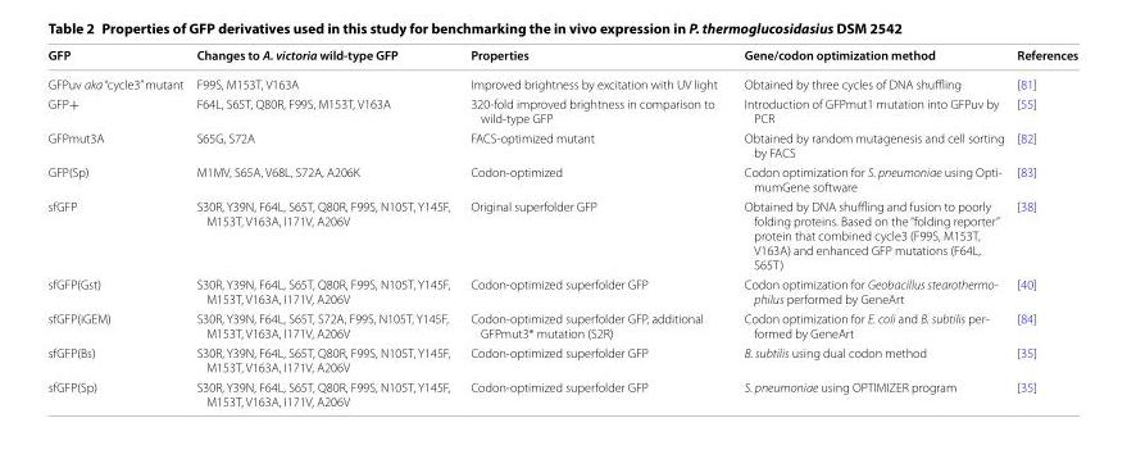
<table><thead><tr><td>GFP</td><td>Changes to A. victoria wild‑type GFP</td><td>Properties</td><td>Gene/codon optimization method</td><td>References</td></tr></thead><tbody><tr><td>GFPuv aka “cycle3” mutant</td><td>F99S, M153T, V163A</td><td>Improved brightness by excitation with UV light</td><td>Obtained by three cycles of DNA shuffling</td><td>[81]</td></tr><tr><td>GFP+</td><td>F64L, S65T, Q80R, F99S, M153T, V163A</td><td>320-fold improved brightness in comparison to wild-type GFP</td><td>Introduction of GFPmut1 mutation into GFPuv by PCR</td><td>[55]</td></tr><tr><td>GFPmut3A</td><td>S65G, S72A</td><td>FACS-optimized mutant</td><td>Obtained by random mutagenesis and cell sorting by FACS</td><td>[82]</td></tr><tr><td>GFP(Sp)</td><td>M1MV, S65A, V68L, S72A, A206K</td><td>Codon-optimized</td><td>Codon optimization for S. pneumoniae using Opti- mumGene software</td><td>[83]</td></tr><tr><td>sfGFP</td><td>S30R, Y39N, F64L, S65T, Q80R, F99S, N105T, Y145F, M153T, V163A, I171V, A206V</td><td>Original superfolder GFP</td><td>Obtained by DNA shuffling and fusion to poorly folding proteins. Based on the “folding reporter” protein that combined cycle3 (F99S, M153T, V163A) and enhanced GFP mutations (F64L, S65T)</td><td>[38]</td></tr><tr><td>sfGFP(Gst)</td><td>S30R, Y39N, F64L, S65T, Q80R, F99S, N105T, Y145F, M153T, V163A, I171V, A206V</td><td>Codon-optimized superfolder GFP</td><td>Codon optimization for Geobacillus stearothermo- philus performed by GeneArt</td><td>[40]</td></tr><tr><td>sfGFP(iGEM)</td><td>S30R, Y39N, F64L, S65T, S72A, F99S, N105T, Y145F, M153T, V163A, I171V, A206V</td><td>Codon-optimized superfolder GFP, additional GFPmut3* mutation (S2R)</td><td>Codon optimization for E. coli and B. subtilis per- formed by GeneArt</td><td>[84]</td></tr><tr><td>sfGFP(Bs)</td><td>S30R, Y39N, F64L, S65T, Q80R, F99S, N105T, Y145F, M153T, V163A, I171V, A206V</td><td>Codon-optimized superfolder GFP</td><td>B. subtilis using dual codon method</td><td>[35]</td></tr><tr><td>sfGFP(Sp)</td><td>S30R, Y39N, F64L, S65T, Q80R, F99S, N105T, Y145F, M153T, V163A, I171V, A206V</td><td>Codon-optimized superfolder GFP</td><td>S. pneumoniae using OPTIMIZER program</td><td>[35]</td></tr></tbody></table>